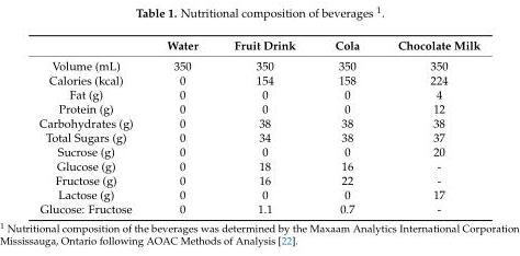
<table><thead><tr><td></td><td>Water</td><td>Fruit Drink</td><td>Cola</td><td>Chocolate Milk</td></tr></thead><tbody><tr><td>Volume (mL)</td><td>350</td><td>350</td><td>350</td><td>350</td></tr><tr><td>Calories (kcal)</td><td>0</td><td>154</td><td>158</td><td>224</td></tr><tr><td>Fat (g)</td><td>0</td><td>0</td><td>0</td><td>4</td></tr><tr><td>Protein (g)</td><td>0</td><td>0</td><td>0</td><td>12</td></tr><tr><td>Carbohydrates (g)</td><td>0</td><td>38</td><td>38</td><td>38</td></tr><tr><td>Total Sugars (g)</td><td>0</td><td>34</td><td>38</td><td>37</td></tr><tr><td>Sucrose (g)</td><td>0</td><td>0</td><td>0</td><td>20</td></tr><tr><td>Glucose (g)</td><td>0</td><td>18</td><td>16</td><td>-</td></tr><tr><td>Fructose (g)</td><td>0</td><td>16</td><td>22</td><td>-</td></tr><tr><td>Lactose (g)</td><td>0</td><td>0</td><td>0</td><td>17</td></tr><tr><td>Glucose: Fructose</td><td>0</td><td>1.1</td><td>0.7</td><td>-</td></tr></tbody></table>